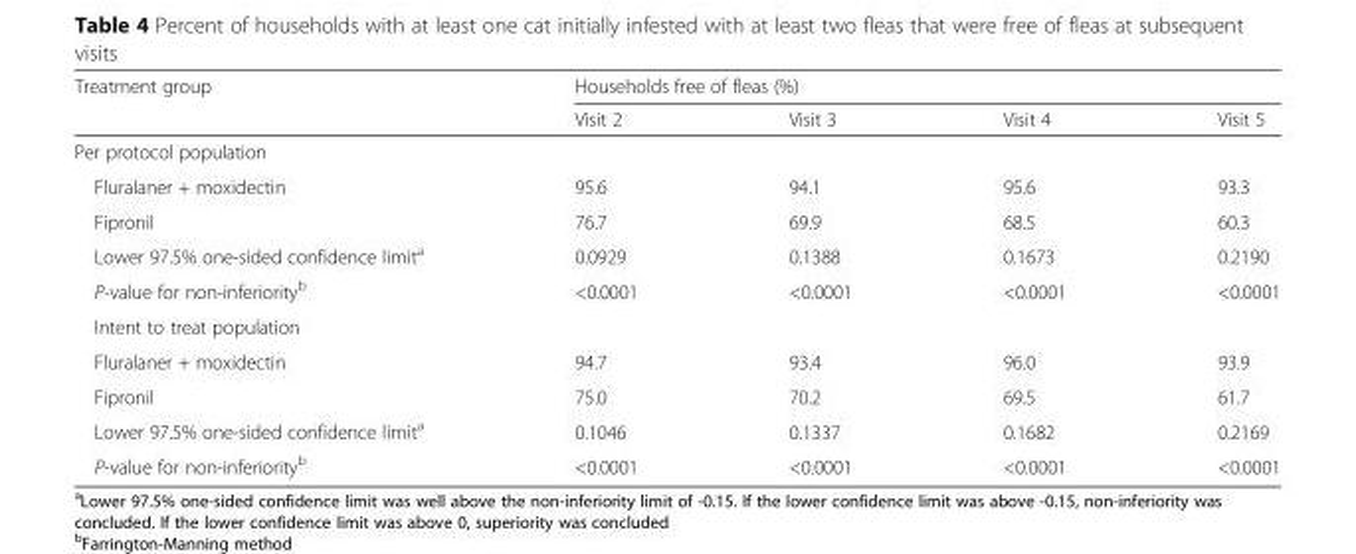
<table><thead><tr><td rowspan="2">Treatment group</td><td colspan="4">Households free of fleas (%)</td></tr><tr><td>Visit 2</td><td>Visit 3</td><td>Visit 4</td><td>Visit 5</td></tr></thead><tbody><tr><td colspan="5">Per protocol population</td></tr><tr><td>Fluralaner + moxidectin</td><td>95.6</td><td>94.1</td><td>95.6</td><td>93.3</td></tr><tr><td>Fipronil</td><td>76.7</td><td>69.9</td><td>68.5</td><td>60.3</td></tr><tr><td>Lower 97.5% one-sided confidence limit<sup>a</sup></td><td>0.0929</td><td>0.1388</td><td>0.1673</td><td>0.2190</td></tr><tr><td>P-value for non-inferiority<sup>b</sup></td><td>&lt;0.0001</td><td>&lt;0.0001</td><td>&lt;0.0001</td><td>&lt;0.0001</td></tr><tr><td colspan="5">Intent to treat population</td></tr><tr><td>Fluralaner + moxidectin</td><td>94.7</td><td>93.4</td><td>96.0</td><td>93.9</td></tr><tr><td>Fipronil</td><td>75.0</td><td>70.2</td><td>69.5</td><td>61.7</td></tr><tr><td>Lower 97.5% one-sided confidence limit<sup>a</sup></td><td>0.1046</td><td>0.1337</td><td>0.1682</td><td>0.2169</td></tr><tr><td>P-value for non-inferiority<sup>b</sup></td><td>&lt;0.0001</td><td>&lt;0.0001</td><td>&lt;0.0001</td><td>&lt;0.0001</td></tr></tbody></table>